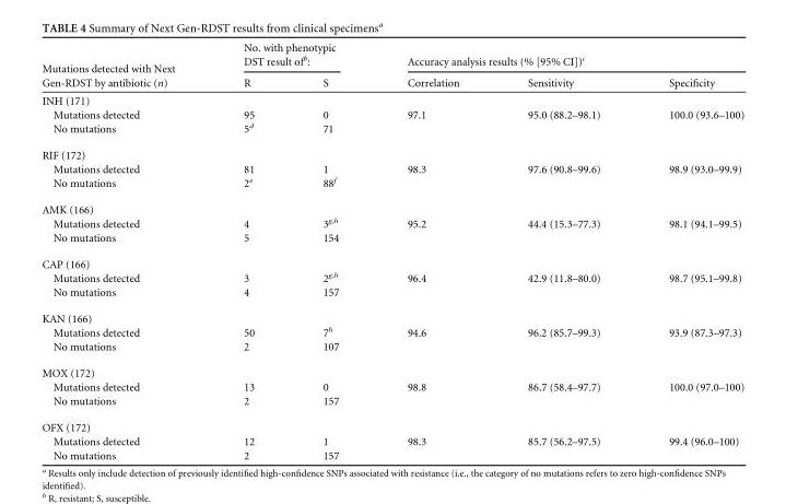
<table><thead><tr><td rowspan="2">Mutations detected with Next Gen-RDST by antibiotic (n)</td><td colspan="2">No. with phenotypic DST result of<sup>b</sup>:</td><td colspan="3">Accuracy analysis results (% [95% CI])<sup>c</sup></td></tr><tr><td>R</td><td>S</td><td>Correlation</td><td>Sensitivity</td><td>Specificity</td></tr></thead><tbody><tr><td colspan="6">INH (171)</td></tr><tr><td>Mutations detected</td><td>95</td><td>0</td><td>97.1</td><td>95.0 (88.2–98.1)</td><td>100.0 (93.6–100)</td></tr><tr><td>No mutations</td><td>5<sup>d</sup></td><td>71</td><td></td><td></td><td></td></tr><tr><td colspan="6">RIF (172)</td></tr><tr><td>Mutations detected</td><td>81</td><td>1</td><td>98.3</td><td>97.6 (90.8–99.6)</td><td>98.9 (93.0–99.9)</td></tr><tr><td>No mutations</td><td>2<sup>e</sup></td><td>88<sup>f</sup></td><td></td><td></td><td></td></tr><tr><td colspan="6">AMK (166)</td></tr><tr><td>Mutations detected</td><td>4</td><td>3<sup>g,h</sup></td><td>95.2</td><td>44.4 (15.3–77.3)</td><td>98.1 (94.1–99.5)</td></tr><tr><td>No mutations</td><td>5</td><td>154</td><td></td><td></td><td></td></tr><tr><td colspan="6">CAP (166)</td></tr><tr><td>Mutations detected</td><td>3</td><td>2<sup>g,h</sup></td><td>96.4</td><td>42.9 (11.8–80.0)</td><td>98.7 (95.1–99.8)</td></tr><tr><td>No mutations</td><td>4</td><td>157</td><td></td><td></td><td></td></tr><tr><td colspan="6">KAN (166)</td></tr><tr><td>Mutations detected</td><td>50</td><td>7<sup>h</sup></td><td>94.6</td><td>96.2 (85.7–99.3)</td><td>93.9 (87.3–97.3)</td></tr><tr><td>No mutations</td><td>2</td><td>107</td><td></td><td></td><td></td></tr><tr><td colspan="6">MOX (172)</td></tr><tr><td>Mutations detected</td><td>13</td><td>0</td><td>98.8</td><td>86.7 (58.4–97.7)</td><td>100.0 (97.0–100)</td></tr><tr><td>No mutations</td><td>2</td><td>157</td><td></td><td></td><td></td></tr><tr><td colspan="6">OFX (172)</td></tr><tr><td>Mutations detected</td><td>12</td><td>1</td><td>98.3</td><td>85.7 (56.2–97.5)</td><td>99.4 (96.0–100)</td></tr><tr><td>No mutations</td><td>2</td><td>157</td><td></td><td></td><td></td></tr></tbody></table>